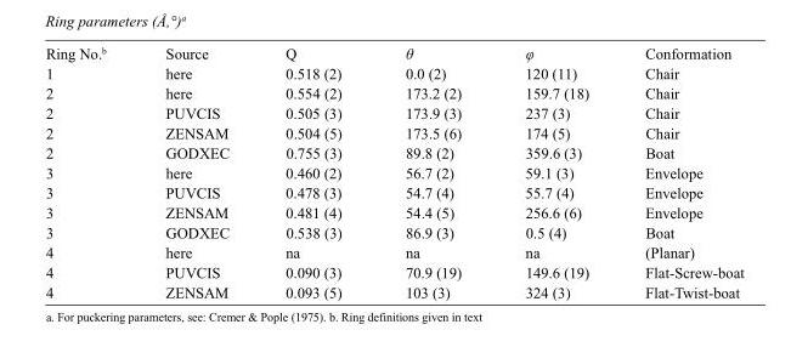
<table><tbody><tr><td>Ring No.<sup>b</sup></td><td>Source</td><td>Q</td><td>θ</td><td>φ</td><td>Conformation</td></tr><tr><td>1</td><td>here</td><td>0.518 (2)</td><td>0.0 (2)</td><td>120 (11)</td><td>Chair</td></tr><tr><td>2</td><td>here</td><td>0.554 (2)</td><td>173.2 (2)</td><td>159.7 (18)</td><td>Chair</td></tr><tr><td>2</td><td>PUVCIS</td><td>0.505 (3)</td><td>173.9 (3)</td><td>237 (3)</td><td>Chair</td></tr><tr><td>2</td><td>ZENSAM</td><td>0.504 (5)</td><td>173.5 (6)</td><td>174 (5)</td><td>Chair</td></tr><tr><td>2</td><td>GODXEC</td><td>0.755 (3)</td><td>89.8 (2)</td><td>359.6 (3)</td><td>Boat</td></tr><tr><td>3</td><td>here</td><td>0.460 (2)</td><td>56.7 (2)</td><td>59.1 (3)</td><td>Envelope</td></tr><tr><td>3</td><td>PUVCIS</td><td>0.478 (3)</td><td>54.7 (4)</td><td>55.7 (4)</td><td>Envelope</td></tr><tr><td>3</td><td>ZENSAM</td><td>0.481 (4)</td><td>54.4 (5)</td><td>256.6 (6)</td><td>Envelope</td></tr><tr><td>3</td><td>GODXEC</td><td>0.538 (3)</td><td>86.9 (3)</td><td>0.5 (4)</td><td>Boat</td></tr><tr><td>4</td><td>here</td><td>na</td><td>na</td><td>na</td><td>(Planar)</td></tr><tr><td>4</td><td>PUVCIS</td><td>0.090 (3)</td><td>70.9 (19)</td><td>149.6 (19)</td><td>Flat-Screw-boat</td></tr><tr><td>4</td><td>ZENSAM</td><td>0.093 (5)</td><td>103 (3)</td><td>324 (3)</td><td>Flat-Twist-boat</td></tr></tbody></table>